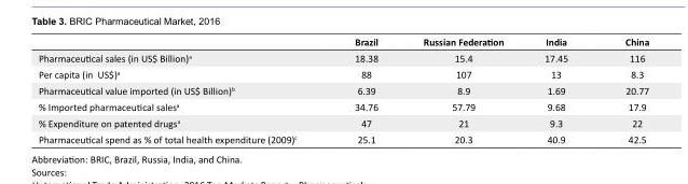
<table><thead><tr><td></td><td>Brazil</td><td>Russian Federation</td><td>India</td><td>China</td></tr></thead><tbody><tr><td>Pharmaceutical sales (in US$ Billion)<sup>a</sup></td><td>18.38</td><td>15.4</td><td>17.45</td><td>116</td></tr><tr><td>Per capita (in US$)<sup>a</sup></td><td>88</td><td>107</td><td>13</td><td>8.3</td></tr><tr><td>Pharmaceutical value imported (in US$ Billion)<sup>b</sup></td><td>6.39</td><td>8.9</td><td>1.69</td><td>20.77</td></tr><tr><td>% Imported pharmaceutical sales<sup>a</sup></td><td>34.76</td><td>57.79</td><td>9.68</td><td>17.9</td></tr><tr><td>% Expenditure on patented drugs<sup>a</sup></td><td>47</td><td>21</td><td>9.3</td><td>22</td></tr><tr><td>Pharmaceutical spend as % of total health expenditure (2009)<sup>c</sup></td><td>25.1</td><td>20.3</td><td>40.9</td><td>42.5</td></tr></tbody></table>